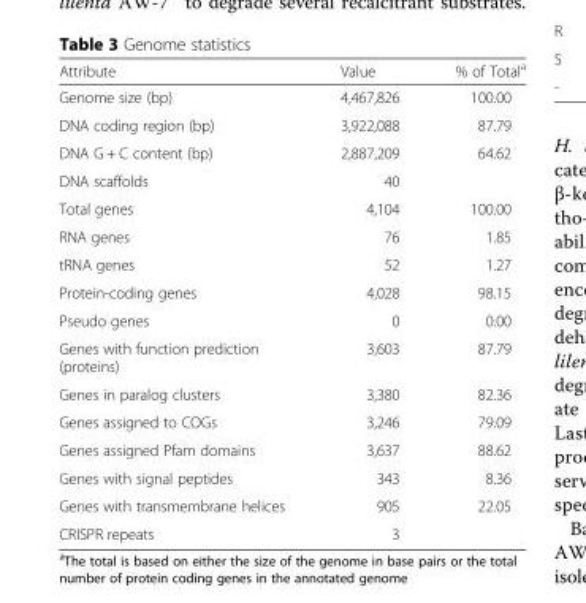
<table><thead><tr><td>Attribute</td><td>Value</td><td>% of Total<sup>a</sup></td></tr></thead><tbody><tr><td>Genome size (bp)</td><td>4,467,826</td><td>100.00</td></tr><tr><td>DNA coding region (bp)</td><td>3,922,088</td><td>87.79</td></tr><tr><td>DNA G + C content (bp)</td><td>2,887,209</td><td>64.62</td></tr><tr><td>DNA scaffolds</td><td>40</td><td></td></tr><tr><td>Total genes</td><td>4,104</td><td>100.00</td></tr><tr><td>RNA genes</td><td>76</td><td>1.85</td></tr><tr><td>tRNA genes</td><td>52</td><td>1.27</td></tr><tr><td>Protein-coding genes</td><td>4,028</td><td>98.15</td></tr><tr><td>Pseudo genes</td><td>0</td><td>0.00</td></tr><tr><td>Genes with function prediction (proteins)</td><td>3,603</td><td>87.79</td></tr><tr><td>Genes in paralog clusters</td><td>3,380</td><td>82.36</td></tr><tr><td>Genes assigned to COGs</td><td>3,246</td><td>79.09</td></tr><tr><td>Genes assigned Pfam domains</td><td>3,637</td><td>88.62</td></tr><tr><td>Genes with signal peptides</td><td>343</td><td>8.36</td></tr><tr><td>Genes with transmembrane helices</td><td>905</td><td>22.05</td></tr><tr><td>CRISPR repeats</td><td>3</td><td></td></tr></tbody></table>